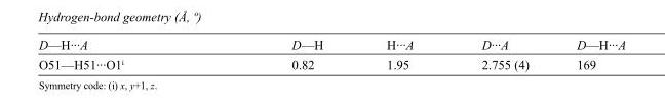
<table><tbody><tr><td>D—H···A</td><td>D—H</td><td>H···A</td><td>D···A</td><td>D—H···A</td></tr><tr><td>O51—H51···O1<sup>i</sup></td><td>0.82</td><td>1.95</td><td>2.755 (4)</td><td>169</td></tr></tbody></table>